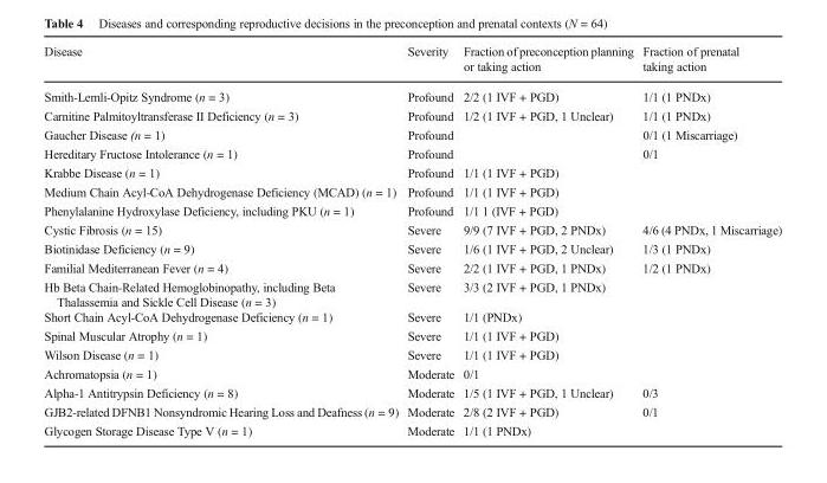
<table><thead><tr><td>Disease</td><td>Severity</td><td>Fraction of preconception planning or taking action</td><td>Fraction of prenatal taking action</td></tr></thead><tbody><tr><td>Smith-Lemli-Opitz Syndrome (n = 3)</td><td>Profound</td><td>2/2 (1 IVF + PGD)</td><td>1/1 (1 PNDx)</td></tr><tr><td>Carnitine Palmitoyltransferase II Deficiency (n = 3)</td><td>Profound</td><td>1/2 (1 IVF + PGD, 1 Unclear)</td><td>1/1 (1 PNDx)</td></tr><tr><td>Gaucher Disease (n = 1)</td><td>Profound</td><td></td><td>0/1 (1 Miscarriage)</td></tr><tr><td>Hereditary Fructose Intolerance (n = 1)</td><td>Profound</td><td></td><td>0/1</td></tr><tr><td>Krabbe Disease (n = 1)</td><td>Profound</td><td>1/1 (1 IVF + PGD)</td><td></td></tr><tr><td>Medium Chain Acyl-CoA Dehydrogenase Deficiency (MCAD) (n = 1)</td><td>Profound</td><td>1/1 (1 IVF + PGD)</td><td></td></tr><tr><td>Phenylalanine Hydroxylase Deficiency, including PKU (n = 1)</td><td>Profound</td><td>1/1 1 (IVF + PGD)</td><td></td></tr><tr><td>Cystic Fibrosis (n = 15)</td><td>Severe</td><td>9/9 (7 IVF + PGD, 2 PNDx)</td><td>4/6 (4 PNDx, 1 Miscarriage)</td></tr><tr><td>Biotinidase Deficiency (n = 9)</td><td>Severe</td><td>1/6 (1 IVF + PGD, 2 Unclear)</td><td>1/3 (1 PNDx)</td></tr><tr><td>Familial Mediterranean Fever (n = 4)</td><td>Severe</td><td>2/2 (1 IVF + PGD, 1 PNDx)</td><td>1/2 (1 PNDx)</td></tr><tr><td>Hb Beta Chain-Related Hemoglobinopathy, including Beta Thalassemia and Sickle Cell Disease (n = 3)</td><td>Severe</td><td>3/3 (2 IVF + PGD, 1 PNDx)</td><td></td></tr><tr><td>Short Chain Acyl-CoA Dehydrogenase Deficiency (n = 1)</td><td>Severe</td><td>1/1 (PNDx)</td><td></td></tr><tr><td>Spinal Muscular Atrophy (n = 1)</td><td>Severe</td><td>1/1 (1 IVF + PGD)</td><td></td></tr><tr><td>Wilson Disease (n = 1)</td><td>Severe</td><td>1/1 (1 IVF + PGD)</td><td></td></tr><tr><td>Achromatopsia (n = 1)</td><td>Moderate</td><td>0/1</td><td></td></tr><tr><td>Alpha-1 Antitrypsin Deficiency (n = 8)</td><td>Moderate</td><td>1/5 (1 IVF + PGD, 1 Unclear)</td><td>0/3</td></tr><tr><td>GJB2-related DFNB1 Nonsyndromic Hearing Loss and Deafness (n = 9)</td><td>Moderate</td><td>2/8 (2 IVF + PGD)</td><td>0/1</td></tr><tr><td>Glycogen Storage Disease Type V (n = 1)</td><td>Moderate</td><td>1/1 (1 PNDx)</td><td></td></tr></tbody></table>